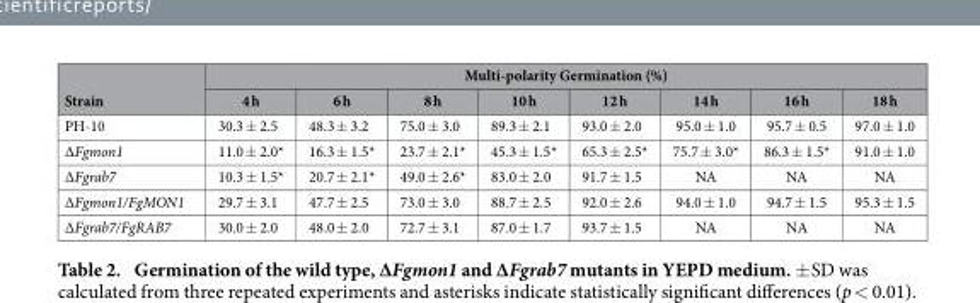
<table><thead><tr><td rowspan="2">Strain</td><td colspan="8">Multi-polarity Germination (%)</td></tr><tr><td>4 h</td><td>6 h</td><td>8 h</td><td>10 h</td><td>12 h</td><td>14 h</td><td>16 h</td><td>18 h</td></tr></thead><tbody><tr><td>PH-10</td><td>30.3 ± 2.5</td><td>48.3 ± 3.2</td><td>75.0 ± 3.0</td><td>89.3 ± 2.1</td><td>93.0 ± 2.0</td><td>95.0 ± 1.0</td><td>95.7 ± 0.5</td><td>97.0 ± 1.0</td></tr><tr><td>∆Fgmon1</td><td>11.0 ± 2.0*</td><td>16.3 ± 1.5*</td><td>23.7 ± 2.1*</td><td>45.3 ± 1.5*</td><td>65.3 ± 2.5*</td><td>75.7 ± 3.0*</td><td>86.3 ± 1.5*</td><td>91.0 ± 1.0</td></tr><tr><td>∆Fgrab7</td><td>10.3 ± 1.5*</td><td>20.7 ± 2.1*</td><td>49.0 ± 2.6*</td><td>83.0 ± 2.0</td><td>91.7 ± 1.5</td><td>NA</td><td>NA</td><td>NA</td></tr><tr><td>∆Fgmon1/FgMON1</td><td>29.7 ± 3.1</td><td>47.7 ± 2.5</td><td>73.0 ± 3.0</td><td>88.7 ± 2.5</td><td>92.0 ± 2.6</td><td>94.0 ± 1.0</td><td>94.7 ± 1.5</td><td>95.3 ± 1.5</td></tr><tr><td>∆Fgrab7/FgRAB7</td><td>30.0 ± 2.0</td><td>48.0 ± 2.0</td><td>72.7 ± 3.1</td><td>87.0 ± 1.7</td><td>93.7 ± 1.5</td><td>NA</td><td>NA</td><td>NA</td></tr></tbody></table>